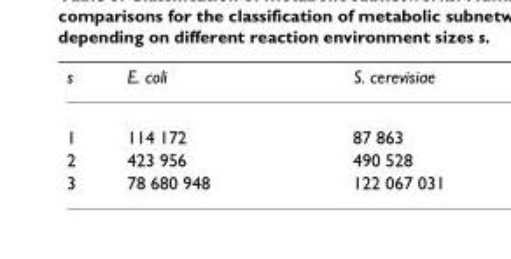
<table><thead><tr><td>s</td><td>E. coli</td><td>S. cerevisiae</td></tr></thead><tbody><tr><td>1</td><td>114 172</td><td>87 863</td></tr><tr><td>2</td><td>423 956</td><td>490 528</td></tr><tr><td>3</td><td>78 680 948</td><td>122 067 031</td></tr></tbody></table>